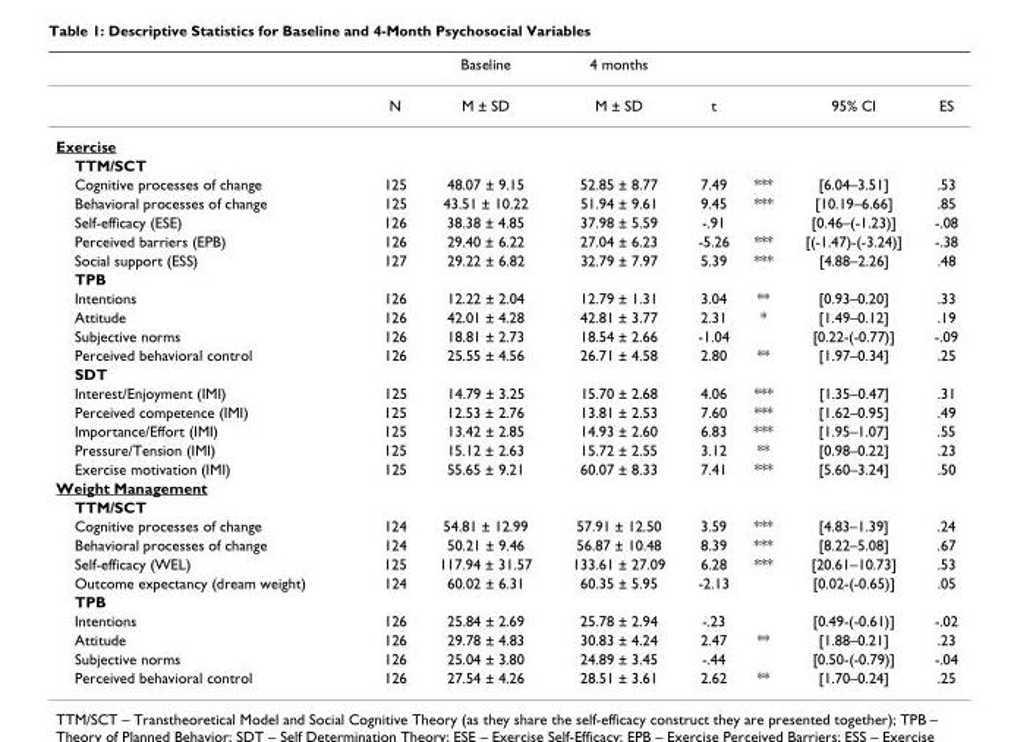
<table><thead><tr><td></td><td></td><td>Baseline</td><td>4 months</td><td></td><td></td><td></td><td></td></tr></thead><tbody><tr><td></td><td>N</td><td>M ± SD</td><td>M ± SD</td><td>t</td><td></td><td>95% CI</td><td>ES</td></tr><tr><td colspan="8">Exercise</td></tr><tr><td colspan="8">TTM/SCT</td></tr><tr><td>Cognitive processes of change</td><td>125</td><td>48.07 ± 9.15</td><td>52.85 ± 8.77</td><td>7.49</td><td>***</td><td>[6.04–3.51]</td><td>.53</td></tr><tr><td>Behavioral processes of change</td><td>125</td><td>43.51 ± 10.22</td><td>51.94 ± 9.61</td><td>9.45</td><td>***</td><td>[10.19–6.66]</td><td>.85</td></tr><tr><td>Self-efficacy (ESE)</td><td>126</td><td>38.38 ± 4.85</td><td>37.98 ± 5.59</td><td>-.91</td><td></td><td>[0.46–(-1.23)]</td><td>-.08</td></tr><tr><td>Perceived barriers (EPB)</td><td>126</td><td>29.40 ± 6.22</td><td>27.04 ± 6.23</td><td>-5.26</td><td>***</td><td>[(-1.47)-(-3.24)]</td><td>-.38</td></tr><tr><td>Social support (ESS)</td><td>127</td><td>29.22 ± 6.82</td><td>32.79 ± 7.97</td><td>5.39</td><td>***</td><td>[4.88–2.26]</td><td>.48</td></tr><tr><td colspan="8">TPB</td></tr><tr><td>Intentions</td><td>126</td><td>12.22 ± 2.04</td><td>12.79 ± 1.31</td><td>3.04</td><td>**</td><td>[0.93–0.20]</td><td>.33</td></tr><tr><td>Attitude</td><td>126</td><td>42.01 ± 4.28</td><td>42.81 ± 3.77</td><td>2.31</td><td>*</td><td>[1.49–0.12]</td><td>.19</td></tr><tr><td>Subjective norms</td><td>126</td><td>18.81 ± 2.73</td><td>18.54 ± 2.66</td><td>-1.04</td><td></td><td>[0.22-(-0.77)]</td><td>-.09</td></tr><tr><td>Perceived behavioral control</td><td>126</td><td>25.55 ± 4.56</td><td>26.71 ± 4.58</td><td>2.80</td><td>**</td><td>[1.97–0.34]</td><td>.25</td></tr><tr><td colspan="8">SDT</td></tr><tr><td>Interest/Enjoyment (IMI)</td><td>125</td><td>14.79 ± 3.25</td><td>15.70 ± 2.68</td><td>4.06</td><td>***</td><td>[1.35–0.47]</td><td>.31</td></tr><tr><td>Perceived competence (IMI)</td><td>125</td><td>12.53 ± 2.76</td><td>13.81 ± 2.53</td><td>7.60</td><td>***</td><td>[1.62–0.95]</td><td>.49</td></tr><tr><td>Importance/Effort (IMI)</td><td>125</td><td>13.42 ± 2.85</td><td>14.93 ± 2.60</td><td>6.83</td><td>***</td><td>[1.95–1.07]</td><td>.55</td></tr><tr><td>Pressure/Tension (IMI)</td><td>125</td><td>15.12 ± 2.63</td><td>15.72 ± 2.55</td><td>3.12</td><td>**</td><td>[0.98–0.22]</td><td>.23</td></tr><tr><td>Exercise motivation (IMI)</td><td>125</td><td>55.65 ± 9.21</td><td>60.07 ± 8.33</td><td>7.41</td><td>***</td><td>[5.60–3.24]</td><td>.50</td></tr><tr><td colspan="8">Weight Management</td></tr><tr><td colspan="8">TTM/SCT</td></tr><tr><td>Cognitive processes of change</td><td>124</td><td>54.81 ± 12.99</td><td>57.91 ± 12.50</td><td>3.59</td><td>***</td><td>[4.83–1.39]</td><td>.24</td></tr><tr><td>Behavioral processes of change</td><td>124</td><td>50.21 ± 9.46</td><td>56.87 ± 10.48</td><td>8.39</td><td>***</td><td>[8.22–5.08]</td><td>.67</td></tr><tr><td>Self-efficacy (WEL)</td><td>125</td><td>117.94 ± 31.57</td><td>133.61 ± 27.09</td><td>6.28</td><td>***</td><td>[20.61–10.73]</td><td>.53</td></tr><tr><td>Outcome expectancy (dream weight)</td><td>124</td><td>60.02 ± 6.31</td><td>60.35 ± 5.95</td><td>-2.13</td><td></td><td>[0.02-(-0.65)]</td><td>.05</td></tr><tr><td colspan="8">TPB</td></tr><tr><td>Intentions</td><td>126</td><td>25.84 ± 2.69</td><td>25.78 ± 2.94</td><td>-.23</td><td></td><td>[0.49-(-0.61)]</td><td>-.02</td></tr><tr><td>Attitude</td><td>126</td><td>29.78 ± 4.83</td><td>30.83 ± 4.24</td><td>2.47</td><td>**</td><td>[1.88–0.21]</td><td>.23</td></tr><tr><td>Subjective norms</td><td>126</td><td>25.04 ± 3.80</td><td>24.89 ± 3.45</td><td>-.44</td><td></td><td>[0.50-(-0.79)]</td><td>-.04</td></tr><tr><td>Perceived behavioral control</td><td>126</td><td>27.54 ± 4.26</td><td>28.51 ± 3.61</td><td>2.62</td><td>**</td><td>[1.70–0.24]</td><td>.25</td></tr></tbody></table>